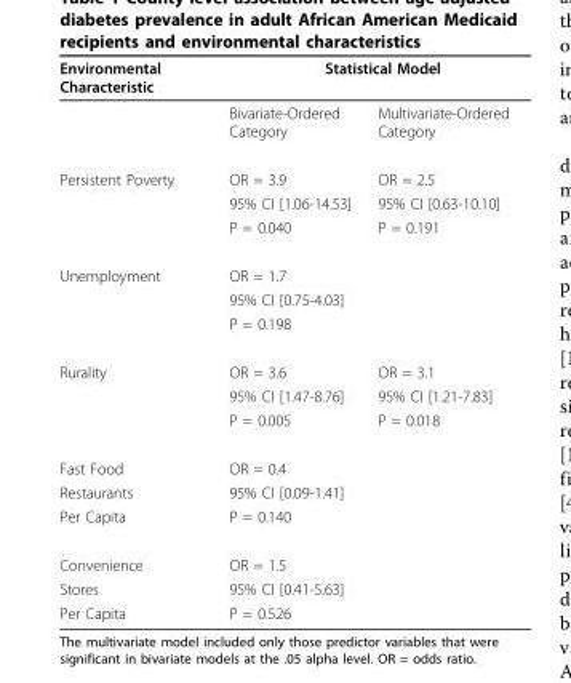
<table><thead><tr><td rowspan="2">Environmental Characteristic</td><td colspan="2">Statistical Model</td></tr><tr><td>Bivariate-Ordered Category</td><td>Multivariate-Ordered Category</td></tr></thead><tbody><tr><td rowspan="3">Persistent Poverty</td><td>OR = 3.9</td><td>OR = 2.5</td></tr><tr><td>95% CI [1.06-14.53]</td><td>95% CI [0.63-10.10]</td></tr><tr><td>P = 0.040</td><td>P = 0.191</td></tr><tr><td rowspan="3">Unemployment</td><td>OR = 1.7</td><td></td></tr><tr><td>95% CI [0.75-4.03]</td><td></td></tr><tr><td>P = 0.198</td><td></td></tr><tr><td rowspan="3">Rurality</td><td>OR = 3.6</td><td>OR = 3.1</td></tr><tr><td>95% CI [1.47-8.76]</td><td>95% CI [1.21-7.83]</td></tr><tr><td>P = 0.005</td><td>P = 0.018</td></tr><tr><td>Fast Food</td><td>OR = 0.4</td><td></td></tr><tr><td>Restaurants</td><td>95% CI [0.09-1.41]</td><td></td></tr><tr><td>Per Capita</td><td>P = 0.140</td><td></td></tr><tr><td>Convenience</td><td>OR = 1.5</td><td></td></tr><tr><td>Stores</td><td>95% CI [0.41-5.63]</td><td></td></tr><tr><td>Per Capita</td><td>P = 0.526</td><td></td></tr></tbody></table>